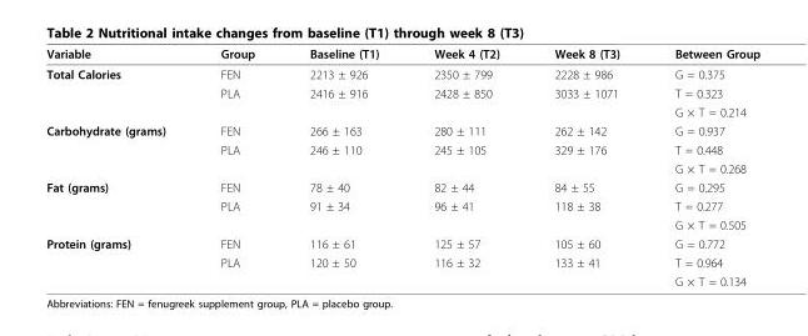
<table><thead><tr><td>Variable</td><td>Group</td><td>Baseline (T1)</td><td>Week 4 (T2)</td><td>Week 8 (T3)</td><td>Between Group</td></tr></thead><tbody><tr><td rowspan="3">Total Calories</td><td>FEN</td><td>2213 ± 926</td><td>2350 ± 799</td><td>2228 ± 986</td><td>G = 0.375</td></tr><tr><td>PLA</td><td>2416 ± 916</td><td>2428 ± 850</td><td>3033 ± 1071</td><td>T = 0.323</td></tr><tr><td></td><td></td><td></td><td></td><td>G × T = 0.214</td></tr><tr><td rowspan="3">Carbohydrate (grams)</td><td>FEN</td><td>266 ± 163</td><td>280 ± 111</td><td>262 ± 142</td><td>G = 0.937</td></tr><tr><td>PLA</td><td>246 ± 110</td><td>245 ± 105</td><td>329 ± 176</td><td>T = 0.448</td></tr><tr><td></td><td></td><td></td><td></td><td>G × T = 0.268</td></tr><tr><td rowspan="3">Fat (grams)</td><td>FEN</td><td>78 ± 40</td><td>82 ± 44</td><td>84 ± 55</td><td>G = 0.295</td></tr><tr><td>PLA</td><td>91 ± 34</td><td>96 ± 41</td><td>118 ± 38</td><td>T = 0.277</td></tr><tr><td></td><td></td><td></td><td></td><td>G × T = 0.505</td></tr><tr><td rowspan="3">Protein (grams)</td><td>FEN</td><td>116 ± 61</td><td>125 ± 57</td><td>105 ± 60</td><td>G = 0.772</td></tr><tr><td>PLA</td><td>120 ± 50</td><td>116 ± 32</td><td>133 ± 41</td><td>T = 0.964</td></tr><tr><td></td><td></td><td></td><td></td><td>G × T = 0.134</td></tr></tbody></table>